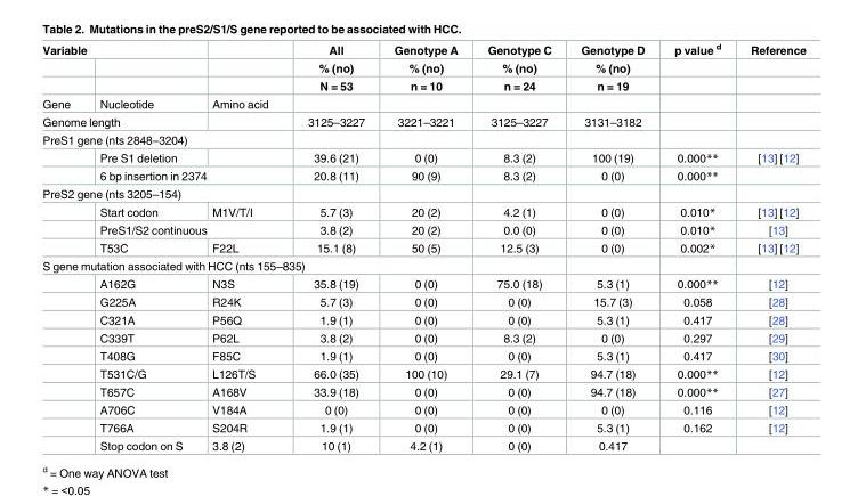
<table><thead><tr><td colspan="2">Variable</td><td rowspan="3"></td><td rowspan="3">All % (no) N = 53</td><td rowspan="3">Genotype A % (no) n = 10</td><td rowspan="3">Genotype C % (no) n = 24</td><td rowspan="3">Genotype D % (no) n = 19</td><td rowspan="3">p value <sup>d</sup></td><td rowspan="3">Reference</td></tr><tr><td rowspan="2"></td><td rowspan="2"></td></tr><tr></tr></thead><tbody><tr><td>Gene</td><td>Nucleotide</td><td>Amino acid</td><td></td><td></td><td></td><td></td><td></td><td></td></tr><tr><td colspan="2">Genome length</td><td></td><td>3125–3227</td><td>3221–3221</td><td>3125–3227</td><td>3131–3182</td><td></td><td></td></tr><tr><td colspan="9">PreS1 gene (nts 2848–3204)</td></tr><tr><td></td><td>Pre S1 deletion</td><td></td><td>39.6 (21)</td><td>0 (0)</td><td>8.3 (2)</td><td>100 (19)</td><td>0.000**</td><td>[13] [12]</td></tr><tr><td></td><td colspan="2">6 bp insertion in 2374</td><td>20.8 (11)</td><td>90 (9)</td><td>8.3 (2)</td><td>0 (0)</td><td>0.000**</td><td></td></tr><tr><td colspan="9">PreS2 gene (nts 3205–154)</td></tr><tr><td></td><td>Start codon</td><td>M1V/T/I</td><td>5.7 (3)</td><td>20 (2)</td><td>4.2 (1)</td><td>0 (0)</td><td>0.010*</td><td>[13] [12]</td></tr><tr><td></td><td colspan="2">PreS1/S2 continuous</td><td>3.8 (2)</td><td>20 (2)</td><td>0.0 (0)</td><td>0 (0)</td><td>0.010*</td><td>[13]</td></tr><tr><td></td><td>T53C</td><td>F22L</td><td>15.1 (8)</td><td>50 (5)</td><td>12.5 (3)</td><td>0 (0)</td><td>0.002*</td><td>[13] [12]</td></tr><tr><td colspan="9">S gene mutation associated with HCC (nts 155–835)</td></tr><tr><td></td><td>A162G</td><td>N3S</td><td>35.8 (19)</td><td>0 (0)</td><td>75.0 (18)</td><td>5.3 (1)</td><td>0.000**</td><td>[12]</td></tr><tr><td></td><td>G225A</td><td>R24K</td><td>5.7 (3)</td><td>0 (0)</td><td>0 (0)</td><td>15.7 (3)</td><td>0.058</td><td>[28]</td></tr><tr><td></td><td>C321A</td><td>P56Q</td><td>1.9 (1)</td><td>0 (0)</td><td>0 (0)</td><td>5.3 (1)</td><td>0.417</td><td>[28]</td></tr><tr><td></td><td>C339T</td><td>P62L</td><td>3.8 (2)</td><td>0 (0)</td><td>8.3 (2)</td><td>0 (0)</td><td>0.297</td><td>[29]</td></tr><tr><td></td><td>T408G</td><td>F85C</td><td>1.9 (1)</td><td>0 (0)</td><td>0 (0)</td><td>5.3 (1)</td><td>0.417</td><td>[30]</td></tr><tr><td></td><td>T531C/G</td><td>L126T/S</td><td>66.0 (35)</td><td>100 (10)</td><td>29.1 (7)</td><td>94.7 (18)</td><td>0.000**</td><td>[12]</td></tr><tr><td></td><td>T657C</td><td>A168V</td><td>33.9 (18)</td><td>0 (0)</td><td>0 (0)</td><td>94.7 (18)</td><td>0.000**</td><td>[27]</td></tr><tr><td></td><td>A706C</td><td>V184A</td><td>0 (0)</td><td>0 (0)</td><td>0 (0)</td><td>0 (0)</td><td>0.116</td><td>[12]</td></tr><tr><td></td><td>T766A</td><td>S204R</td><td>1.9 (1)</td><td>0 (0)</td><td>0 (0)</td><td>5.3 (1)</td><td>0.162</td><td>[12]</td></tr><tr><td></td><td>Stop codon on S</td><td>3.8 (2)</td><td>10 (1)</td><td>4.2 (1)</td><td>0 (0)</td><td>0.417</td><td></td><td></td></tr></tbody></table>